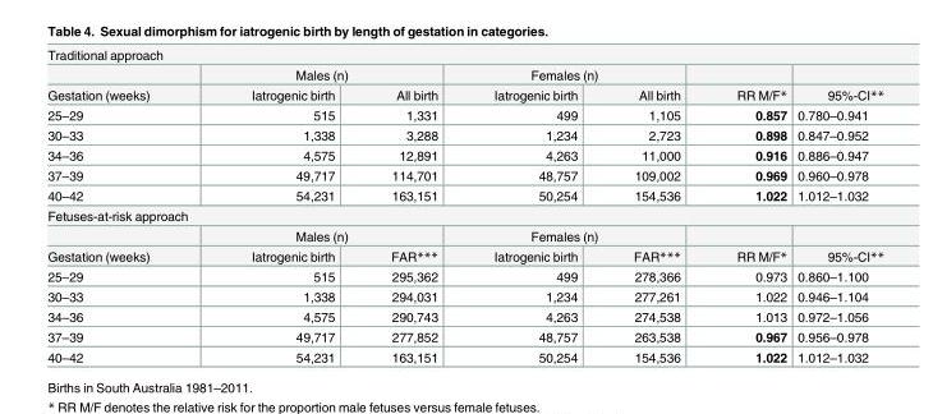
<table><tbody><tr><td colspan="7">Traditional approach</td></tr><tr><td></td><td colspan="2">Males (n)</td><td colspan="2">Females (n)</td><td></td><td></td></tr><tr><td>Gestation (weeks)</td><td>Iatrogenic birth</td><td>All birth</td><td>Iatrogenic birth</td><td>All birth</td><td>RR M/F*</td><td>95%-CI**</td></tr><tr><td>25–29</td><td>515</td><td>1,331</td><td>499</td><td>1,105</td><td>0.857</td><td>0.780–0.941</td></tr><tr><td>30–33</td><td>1,338</td><td>3,288</td><td>1,234</td><td>2,723</td><td>0.898</td><td>0.847–0.952</td></tr><tr><td>34–36</td><td>4,575</td><td>12,891</td><td>4,263</td><td>11,000</td><td>0.916</td><td>0.886–0.947</td></tr><tr><td>37–39</td><td>49,717</td><td>114,701</td><td>48,757</td><td>109,002</td><td>0.969</td><td>0.960–0.978</td></tr><tr><td>40–42</td><td>54,231</td><td>163,151</td><td>50,254</td><td>154,536</td><td>1.022</td><td>1.012–1.032</td></tr><tr><td colspan="7">Fetuses-at-risk approach</td></tr><tr><td></td><td colspan="2">Males (n)</td><td colspan="2">Females (n)</td><td></td><td></td></tr><tr><td>Gestation (weeks)</td><td>Iatrogenic birth</td><td>FAR***</td><td>Iatrogenic birth</td><td>FAR***</td><td>RR M/F*</td><td>95%-CI**</td></tr><tr><td>25–29</td><td>515</td><td>295,362</td><td>499</td><td>278,366</td><td>0.973</td><td>0.860–1.100</td></tr><tr><td>30–33</td><td>1,338</td><td>294,031</td><td>1,234</td><td>277,261</td><td>1.022</td><td>0.946–1.104</td></tr><tr><td>34–36</td><td>4,575</td><td>290,743</td><td>4,263</td><td>274,538</td><td>1.013</td><td>0.972–1.056</td></tr><tr><td>37–39</td><td>49,717</td><td>277,852</td><td>48,757</td><td>263,538</td><td>0.967</td><td>0.956–0.978</td></tr><tr><td>40–42</td><td>54,231</td><td>163,151</td><td>50,254</td><td>154,536</td><td>1.022</td><td>1.012–1.032</td></tr></tbody></table>